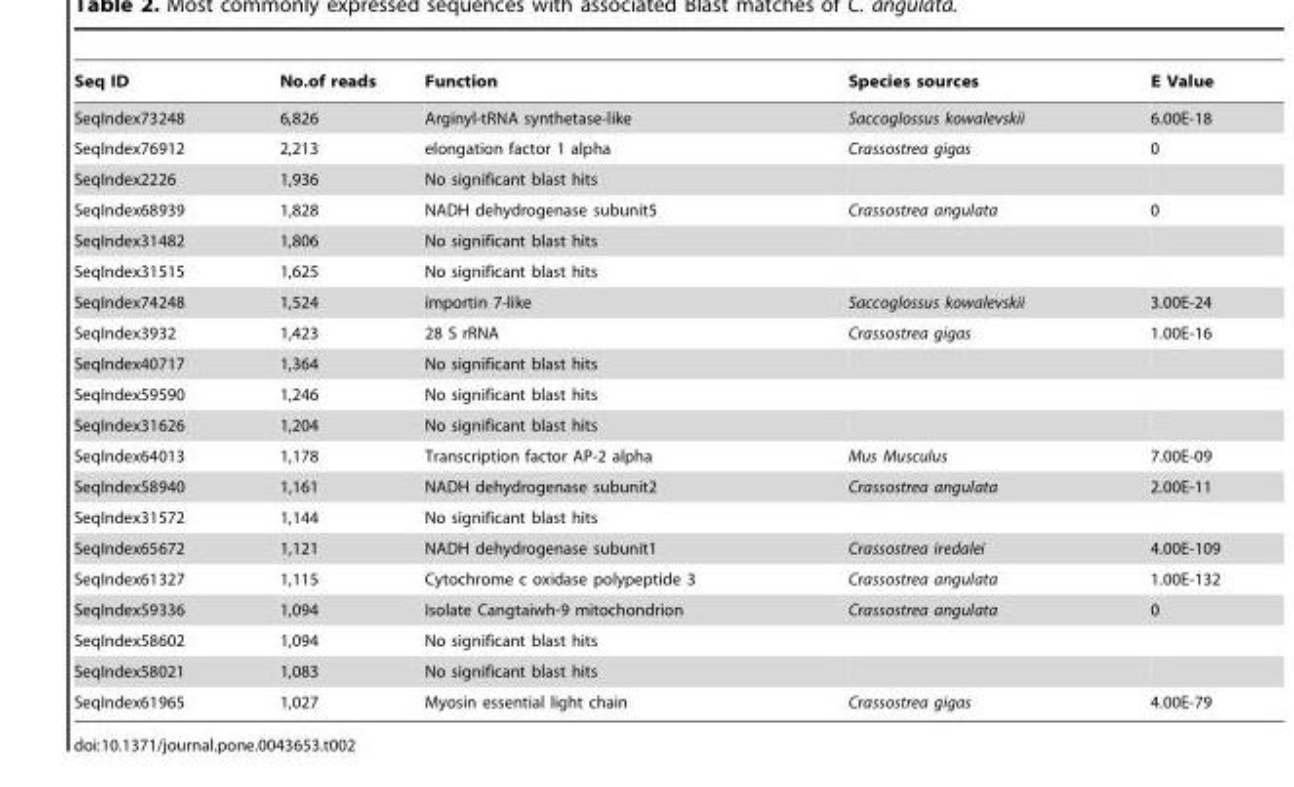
<table><thead><tr><td>Seq ID</td><td>No.of reads</td><td>Function</td><td>Species sources</td><td>E Value</td></tr></thead><tbody><tr><td>SeqIndex73248</td><td>6,826</td><td>Arginyl-tRNA synthetase-like</td><td>Saccoglossus kowalevskii</td><td>6.00E-18</td></tr><tr><td>SeqIndex76912</td><td>2,213</td><td>elongation factor 1 alpha</td><td>Crassostrea gigas</td><td>0</td></tr><tr><td>SeqIndex2226</td><td>1,936</td><td>No significant blast hits</td><td></td><td></td></tr><tr><td>SeqIndex68939</td><td>1,828</td><td>NADH dehydrogenase subunit5</td><td>Crassostrea angulata</td><td>0</td></tr><tr><td>SeqIndex31482</td><td>1,806</td><td>No significant blast hits</td><td></td><td></td></tr><tr><td>SeqIndex31515</td><td>1,625</td><td>No significant blast hits</td><td></td><td></td></tr><tr><td>SeqIndex74248</td><td>1,524</td><td>importin 7-like</td><td>Saccoglossus kowalevskii</td><td>3.00E-24</td></tr><tr><td>SeqIndex3932</td><td>1,423</td><td>28 S rRNA</td><td>Crassostrea gigas</td><td>1.00E-16</td></tr><tr><td>SeqIndex40717</td><td>1,364</td><td>No significant blast hits</td><td></td><td></td></tr><tr><td>SeqIndex59590</td><td>1,246</td><td>No significant blast hits</td><td></td><td></td></tr><tr><td>SeqIndex31626</td><td>1,204</td><td>No significant blast hits</td><td></td><td></td></tr><tr><td>SeqIndex64013</td><td>1,178</td><td>Transcription factor AP-2 alpha</td><td>Mus Musculus</td><td>7.00E-09</td></tr><tr><td>SeqIndex58940</td><td>1,161</td><td>NADH dehydrogenase subunit2</td><td>Crassostrea angulata</td><td>2.00E-11</td></tr><tr><td>SeqIndex31572</td><td>1,144</td><td>No significant blast hits</td><td></td><td></td></tr><tr><td>SeqIndex65672</td><td>1,121</td><td>NADH dehydrogenase subunit1</td><td>Crassostrea iredalei</td><td>4.00E-109</td></tr><tr><td>SeqIndex61327</td><td>1,115</td><td>Cytochrome c oxidase polypeptide 3</td><td>Crassostrea angulata</td><td>1.00E-132</td></tr><tr><td>SeqIndex59336</td><td>1,094</td><td>Isolate Cangtaiwh-9 mitochondrion</td><td>Crassostrea angulata</td><td>0</td></tr><tr><td>SeqIndex58602</td><td>1,094</td><td>No significant blast hits</td><td></td><td></td></tr><tr><td>SeqIndex58021</td><td>1,083</td><td>No significant blast hits</td><td></td><td></td></tr><tr><td>SeqIndex61965</td><td>1,027</td><td>Myosin essential light chain</td><td>Crassostrea gigas</td><td>4.00E-79</td></tr></tbody></table>